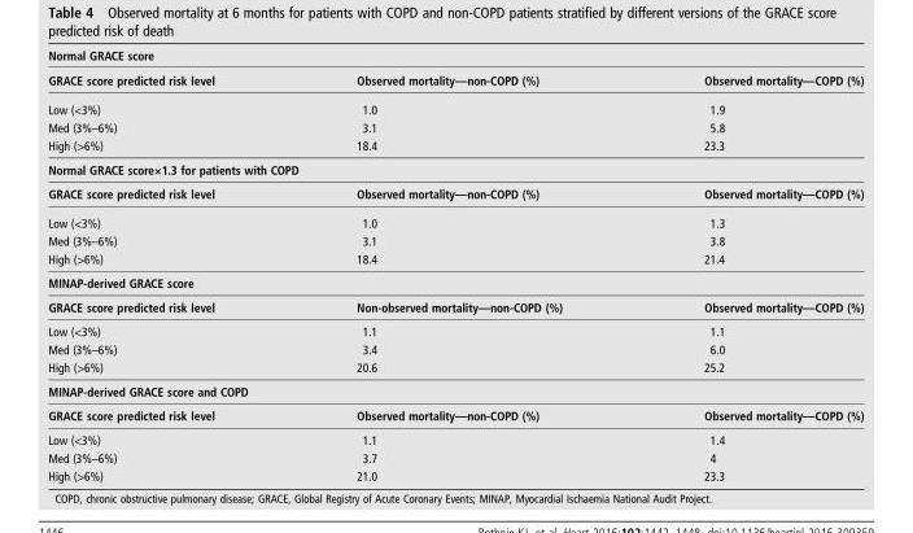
<table><thead><tr><td colspan="3">Normal GRACE score</td></tr><tr><td>GRACE score predicted risk level</td><td>Observed mortality—non-COPD (%)</td><td>Observed mortality—COPD (%)</td></tr></thead><tbody><tr><td>Low (&lt;3%)</td><td>1.0</td><td>1.9</td></tr><tr><td>Med (3%–6%)</td><td>3.1</td><td>5.8</td></tr><tr><td>High (&gt;6%)</td><td>18.4</td><td>23.3</td></tr><tr><td colspan="3">Normal GRACE score×1.3 for patients with COPD</td></tr><tr><td>GRACE score predicted risk level</td><td>Observed mortality—non-COPD (%)</td><td>Observed mortality—COPD (%)</td></tr><tr><td>Low (&lt;3%)</td><td>1.0</td><td>1.3</td></tr><tr><td>Med (3%–6%)</td><td>3.1</td><td>3.8</td></tr><tr><td>High (&gt;6%)</td><td>18.4</td><td>21.4</td></tr><tr><td colspan="3">MINAP-derived GRACE score</td></tr><tr><td>GRACE score predicted risk level</td><td>Non-observed mortality—non-COPD (%)</td><td>Observed mortality—COPD (%)</td></tr><tr><td>Low (&lt;3%)</td><td>1.1</td><td>1.1</td></tr><tr><td>Med (3%–6%)</td><td>3.4</td><td>6.0</td></tr><tr><td>High (&gt;6%)</td><td>20.6</td><td>25.2</td></tr><tr><td colspan="3">MINAP-derived GRACE score and COPD</td></tr><tr><td>GRACE score predicted risk level</td><td>Observed mortality—non-COPD (%)</td><td>Observed mortality—COPD (%)</td></tr><tr><td>Low (&lt;3%)</td><td>1.1</td><td>1.4</td></tr><tr><td>Med (3%–6%)</td><td>3.7</td><td>4</td></tr><tr><td>High (&gt;6%)</td><td>21.0</td><td>23.3</td></tr></tbody></table>